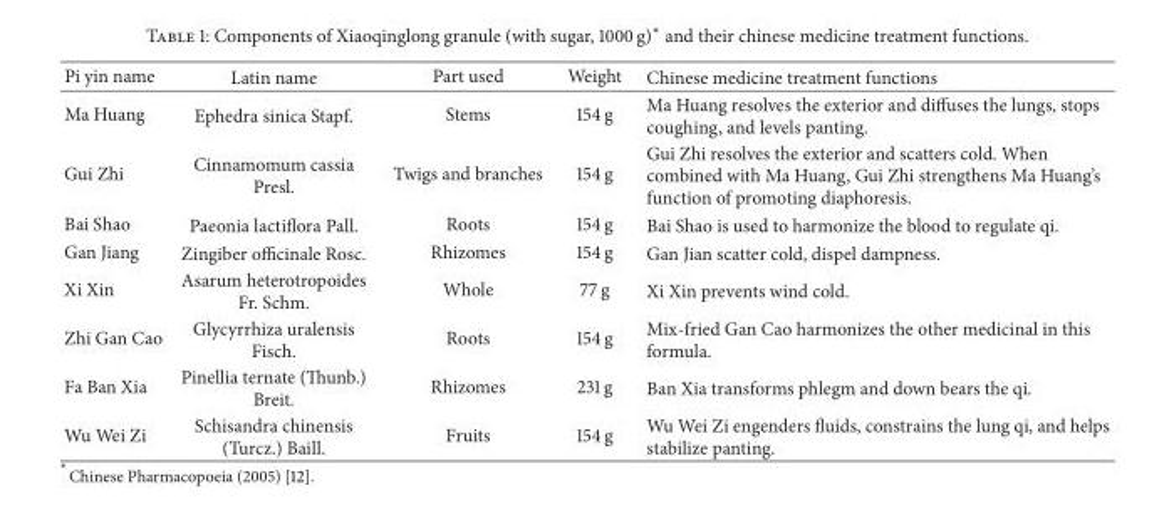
<table><thead><tr><td>Pi yin name</td><td>Latin name</td><td>Part used</td><td>Weight</td><td>Chinese medicine treatment functions</td></tr></thead><tbody><tr><td>Ma Huang</td><td>Ephedra sinica Stapf.</td><td>Stems</td><td>154 g</td><td>Ma Huang resolves the exterior and diffuses the lungs, stops coughing, and levels panting.</td></tr><tr><td>Gui Zhi</td><td>Cinnamomum cassia Presl.</td><td>Twigs and branches</td><td>154 g</td><td>Gui Zhi resolves the exterior and scatters cold. When combined with Ma Huang, Gui Zhi strengthens Ma Huang’s function of promoting diaphoresis.</td></tr><tr><td>Bai Shao</td><td>Paeonia lactiflora Pall.</td><td>Roots</td><td>154 g</td><td>Bai Shao is used to harmonize the blood to regulate qi.</td></tr><tr><td>Gan Jiang</td><td>Zingiber officinale Rosc.</td><td>Rhizomes</td><td>154 g</td><td>Gan Jian scatter cold, dispel dampness.</td></tr><tr><td>Xi Xin</td><td>Asarum heterotropoides Fr. Schm.</td><td>Whole</td><td>77 g</td><td>Xi Xin prevents wind cold.</td></tr><tr><td>Zhi Gan Cao</td><td>Glycyrrhiza uralensis Fisch.</td><td>Roots</td><td>154 g</td><td>Mix-fried Gan Cao harmonizes the other medicinal in this formula.</td></tr><tr><td>Fa Ban Xia</td><td>Pinellia ternate (Thunb.) Breit.</td><td>Rhizomes</td><td>231 g</td><td>Ban Xia transforms phlegm and down bears the qi.</td></tr><tr><td>Wu Wei Zi</td><td>Schisandra chinensis (Turcz.) Baill.</td><td>Fruits</td><td>154 g</td><td>Wu Wei Zi engenders fluids, constrains the lung qi, and helps stabilize panting.</td></tr></tbody></table>